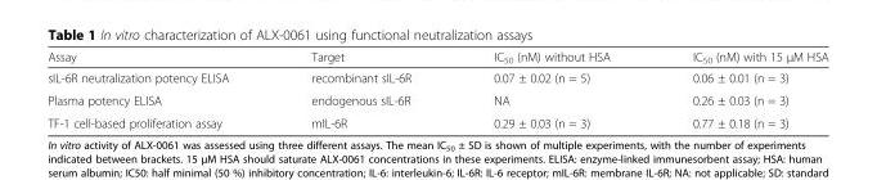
<table><thead><tr><td>Assay</td><td>Target</td><td>IC<sub>50</sub> (nM) without HSA</td><td>IC<sub>50</sub> (nM) with 15 μM HSA</td></tr></thead><tbody><tr><td>sIL-6R neutralization potency ELISA</td><td>recombinant sIL-6R</td><td>0.07 ± 0.02 (n = 5)</td><td>0.06 ± 0.01 (n = 3)</td></tr><tr><td>Plasma potency ELISA</td><td>endogenous sIL-6R</td><td>NA</td><td>0.26 ± 0.03 (n = 3)</td></tr><tr><td>TF-1 cell-based proliferation assay</td><td>mIL-6R</td><td>0.29 ± 0.03 (n = 3)</td><td>0.77 ± 0.18 (n = 3)</td></tr></tbody></table>